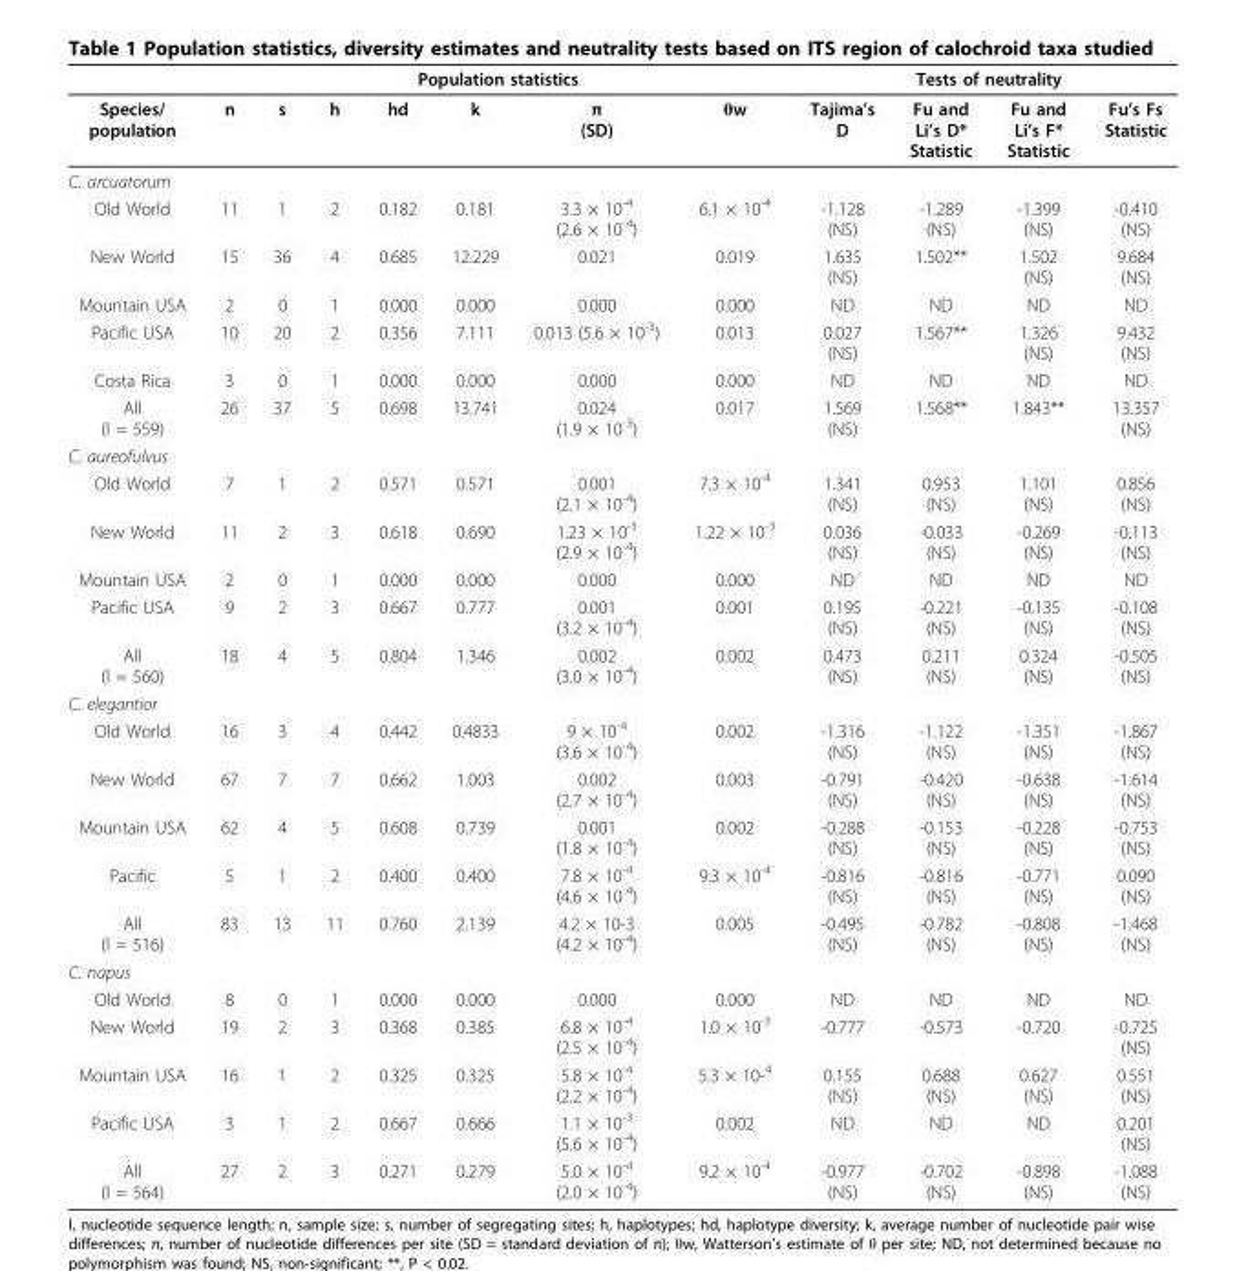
<table><thead><tr><td rowspan="2">Species/ population</td><td colspan="7">Population statistics</td><td colspan="4">Tests of neutrality</td></tr><tr><td>n</td><td>s</td><td>h</td><td>hd</td><td>k</td><td>π (SD)</td><td>θw</td><td>Tajima’s D</td><td>Fu and Li’s D* Statistic</td><td>Fu and Li’s F* Statistic</td><td>Fu’s Fs Statistic</td></tr></thead><tbody><tr><td colspan="12">C. arcuatorum</td></tr><tr><td>Old World</td><td>11</td><td>1</td><td>2</td><td>0.182</td><td>0.181</td><td>3.3 × 10<sup>-4</sup> (2.6 × 10<sup>-4</sup>)</td><td>6.1 × 10<sup>-4</sup></td><td>-1.128 (NS)</td><td>-1.289 (NS)</td><td>-1.399 (NS)</td><td>-0.410 (NS)</td></tr><tr><td>New World</td><td>15</td><td>36</td><td>4</td><td>0.685</td><td>12.229</td><td>0.021</td><td>0.019</td><td>1.635 (NS)</td><td>1.502**</td><td>1.502 (NS)</td><td>9.684 (NS)</td></tr><tr><td>Mountain USA</td><td>2</td><td>0</td><td>1</td><td>0.000</td><td>0.000</td><td>0.000</td><td>0.000</td><td>ND</td><td>ND</td><td>ND</td><td>ND</td></tr><tr><td>Pacific USA</td><td>10</td><td>20</td><td>2</td><td>0.356</td><td>7.111</td><td>0.013 (5.6 × 10<sup>-3</sup>)</td><td>0.013</td><td>0.027 (NS)</td><td>1.567**</td><td>1.326 (NS)</td><td>9.432 (NS)</td></tr><tr><td>Costa Rica</td><td>3</td><td>0</td><td>1</td><td>0.000</td><td>0.000</td><td>0.000</td><td>0.000</td><td>ND</td><td>ND</td><td>ND</td><td>ND</td></tr><tr><td>All (l = 559)</td><td>26</td><td>37</td><td>5</td><td>0.698</td><td>13.741</td><td>0.024 (1.9 × 10<sup>-3</sup>)</td><td>0.017</td><td>1.569 (NS)</td><td>1.568**</td><td>1.843**</td><td>13.357 (NS)</td></tr><tr><td colspan="12">C. aureofulvus</td></tr><tr><td>Old World</td><td>7</td><td>1</td><td>2</td><td>0.571</td><td>0.571</td><td>0.001 (2.1 × 10<sup>-4</sup>)</td><td>7.3 × 10<sup>-4</sup></td><td>1.341 (NS)</td><td>0.953 (NS)</td><td>1.101 (NS)</td><td>0.856 (NS)</td></tr><tr><td>New World</td><td>11</td><td>2</td><td>3</td><td>0.618</td><td>0.690</td><td>1.23 × 10<sup>-3</sup> (2.9 × 10<sup>-4</sup>)</td><td>1.22 × 10<sup>-3</sup></td><td>0.036 (NS)</td><td>-0.033 (NS)</td><td>-0.269 (NS)</td><td>-0.113 (NS)</td></tr><tr><td>Mountain USA</td><td>2</td><td>0</td><td>1</td><td>0.000</td><td>0.000</td><td>0.000</td><td>0.000</td><td>ND</td><td>ND</td><td>ND</td><td>ND</td></tr><tr><td>Pacific USA</td><td>9</td><td>2</td><td>3</td><td>0.667</td><td>0.777</td><td>0.001 (3.2 × 10<sup>-4</sup>)</td><td>0.001</td><td>0.195 (NS)</td><td>-0.221 (NS)</td><td>-0.135 (NS)</td><td>-0.108 (NS)</td></tr><tr><td>All (l = 560)</td><td>18</td><td>4</td><td>5</td><td>0.804</td><td>1.346</td><td>0.002 (3.0 × 10<sup>-4</sup>)</td><td>0.002</td><td>0.473 (NS)</td><td>0.211 (NS)</td><td>0.324 (NS)</td><td>-0.505 (NS)</td></tr><tr><td colspan="12">C. elegantior</td></tr><tr><td>Old World</td><td>16</td><td>3</td><td>4</td><td>0.442</td><td>0.4833</td><td>9 × 10<sup>-4</sup> (3.6 × 10<sup>-4</sup>)</td><td>0.002</td><td>-1.316 (NS)</td><td>-1.122 (NS)</td><td>-1.351 (NS)</td><td>-1.867 (NS)</td></tr><tr><td>New World</td><td>67</td><td>7</td><td>7</td><td>0.662</td><td>1.003</td><td>0.002 (2.7 × 10<sup>-4</sup>)</td><td>0.003</td><td>-0.791 (NS)</td><td>-0.420 (NS)</td><td>-0.638 (NS)</td><td>-1.614 (NS)</td></tr><tr><td>Mountain USA</td><td>62</td><td>4</td><td>5</td><td>0.608</td><td>0.739</td><td>0.001 (1.8 × 10<sup>-4</sup>)</td><td>0.002</td><td>-0.288 (NS)</td><td>-0.153 (NS)</td><td>-0.228 (NS)</td><td>-0.753 (NS)</td></tr><tr><td>Pacific</td><td>5</td><td>1</td><td>2</td><td>0.400</td><td>0.400</td><td>7.8 × 10<sup>-4</sup> (4.6 × 10<sup>-4</sup>)</td><td>9.3 × 10<sup>-4</sup></td><td>-0.816 (NS)</td><td>-0.816 (NS)</td><td>-0.771 (NS)</td><td>0.090 (NS)</td></tr><tr><td>All (l = 516)</td><td>83</td><td>13</td><td>11</td><td>0.760</td><td>2.139</td><td>4.2 × 10-3 (4.2 × 10<sup>-4</sup>)</td><td>0.005</td><td>-0.495 (NS)</td><td>-0.782 (NS)</td><td>-0.808 (NS)</td><td>-1.468 (NS)</td></tr><tr><td colspan="12">C. napus</td></tr><tr><td>Old World</td><td>8</td><td>0</td><td>1</td><td>0.000</td><td>0.000</td><td>0.000</td><td>0.000</td><td>ND</td><td>ND</td><td>ND</td><td>ND</td></tr><tr><td>New World</td><td>19</td><td>2</td><td>3</td><td>0.368</td><td>0.385</td><td>6.8 × 10<sup>-4</sup> (2.5 × 10<sup>-4</sup>)</td><td>1.0 × 10<sup>-3</sup></td><td>-0.777</td><td>-0.573</td><td>-0.720</td><td>-0.725 (NS)</td></tr><tr><td>Mountain USA</td><td>16</td><td>1</td><td>2</td><td>0.325</td><td>0.325</td><td>5.8 × 10<sup>-4</sup> (2.2 × 10<sup>-4</sup>)</td><td>5.3 × 10-<sup>4</sup></td><td>0.155 (NS)</td><td>0.688 (NS)</td><td>0.627 (NS)</td><td>0.551 (NS)</td></tr><tr><td>Pacific USA</td><td>3</td><td>1</td><td>2</td><td>0.667</td><td>0.666</td><td>1.1 × 10<sup>-3</sup> (5.6 × 10<sup>-4</sup>)</td><td>0.002</td><td>ND</td><td>ND</td><td>ND</td><td>0.201 (NS)</td></tr><tr><td>All (l = 564)</td><td>27</td><td>2</td><td>3</td><td>0.271</td><td>0.279</td><td>5.0 × 10<sup>-4</sup> (2.0 × 10<sup>-4</sup>)</td><td>9.2 × 10<sup>-4</sup></td><td>-0.977 (NS)</td><td>-0.702 (NS)</td><td>-0.898 (NS)</td><td>-1.088 (NS)</td></tr></tbody></table>